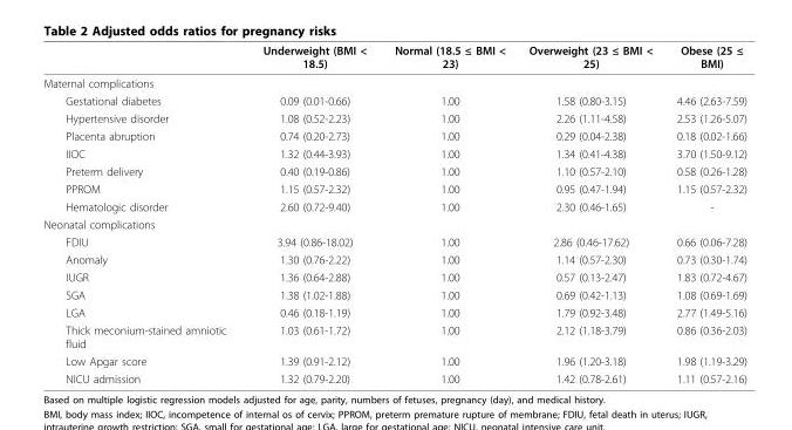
<table><thead><tr><td></td><td>Underweight (BMI &lt; 18.5)</td><td>Normal (18.5 ≤ BMI &lt; 23)</td><td>Overweight (23 ≤ BMI &lt; 25)</td><td>Obese (25 ≤ BMI)</td></tr></thead><tbody><tr><td colspan="5">Maternal complications</td></tr><tr><td>Gestational diabetes</td><td>0.09 (0.01-0.66)</td><td>1.00</td><td>1.58 (0.80-3.15)</td><td>4.46 (2.63-7.59)</td></tr><tr><td>Hypertensive disorder</td><td>1.08 (0.52-2.23)</td><td>1.00</td><td>2.26 (1.11-4.58)</td><td>2.53 (1.26-5.07)</td></tr><tr><td>Placenta abruption</td><td>0.74 (0.20-2.73)</td><td>1.00</td><td>0.29 (0.04-2.38)</td><td>0.18 (0.02-1.66)</td></tr><tr><td>IIOC</td><td>1.32 (0.44-3.93)</td><td>1.00</td><td>1.34 (0.41-4.38)</td><td>3.70 (1.50-9.12)</td></tr><tr><td>Preterm delivery</td><td>0.40 (0.19-0.86)</td><td>1.00</td><td>1.10 (0.57-2.10)</td><td>0.58 (0.26-1.28)</td></tr><tr><td>PPROM</td><td>1.15 (0.57-2.32)</td><td>1.00</td><td>0.95 (0.47-1.94)</td><td>1.15 (0.57-2.32)</td></tr><tr><td>Hematologic disorder</td><td>2.60 (0.72-9.40)</td><td>1.00</td><td>2.30 (0.46-1.65)</td><td>-</td></tr><tr><td colspan="5">Neonatal complications</td></tr><tr><td>FDIU</td><td>3.94 (0.86-18.02)</td><td>1.00</td><td>2.86 (0.46-17.62)</td><td>0.66 (0.06-7.28)</td></tr><tr><td>Anomaly</td><td>1.30 (0.76-2.22)</td><td>1.00</td><td>1.14 (0.57-2.30)</td><td>0.73 (0.30-1.74)</td></tr><tr><td>IUGR</td><td>1.36 (0.64-2.88)</td><td>1.00</td><td>0.57 (0.13-2.47)</td><td>1.83 (0.72-4.67)</td></tr><tr><td>SGA</td><td>1.38 (1.02-1.88)</td><td>1.00</td><td>0.69 (0.42-1.13)</td><td>1.08 (0.69-1.69)</td></tr><tr><td>LGA</td><td>0.46 (0.18-1.19)</td><td>1.00</td><td>1.79 (0.92-3.48)</td><td>2.77 (1.49-5.16)</td></tr><tr><td>Thick meconium-stained amniotic fluid</td><td>1.03 (0.61-1.72)</td><td>1.00</td><td>2.12 (1.18-3.79)</td><td>0.86 (0.36-2.03)</td></tr><tr><td>Low Apgar score</td><td>1.39 (0.91-2.12)</td><td>1.00</td><td>1.96 (1.20-3.18)</td><td>1.98 (1.19-3.29)</td></tr><tr><td>NICU admission</td><td>1.32 (0.79-2.20)</td><td>1.00</td><td>1.42 (0.78-2.61)</td><td>1.11 (0.57-2.16)</td></tr></tbody></table>